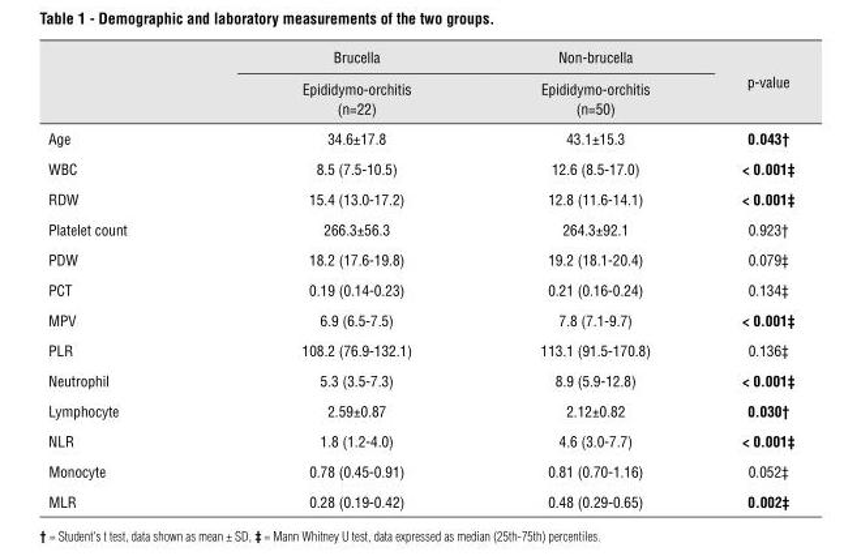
<table><thead><tr><td rowspan="2"></td><td rowspan="2">Brucella Epididymo-orchitis (n=22)</td><td rowspan="2">Non-brucella Epididymo-orchitis (n=50)</td><td rowspan="2">p-value</td></tr><tr></tr></thead><tbody><tr><td>Age</td><td>34.6±17.8</td><td>43.1±15.3</td><td>0.043†</td></tr><tr><td>WBC</td><td>8.5 (7.5-10.5)</td><td>12.6 (8.5-17.0)</td><td>&lt; 0.001‡</td></tr><tr><td>RDW</td><td>15.4 (13.0-17.2)</td><td>12.8 (11.6-14.1)</td><td>&lt; 0.001‡</td></tr><tr><td>Platelet count</td><td>266.3±56.3</td><td>264.3±92.1</td><td>0.923†</td></tr><tr><td>PDW</td><td>18.2 (17.6-19.8)</td><td>19.2 (18.1-20.4)</td><td>0.079‡</td></tr><tr><td>PCT</td><td>0.19 (0.14-0.23)</td><td>0.21 (0.16-0.24)</td><td>0.134‡</td></tr><tr><td>MPV</td><td>6.9 (6.5-7.5)</td><td>7.8 (7.1-9.7)</td><td>&lt; 0.001‡</td></tr><tr><td>PLR</td><td>108.2 (76.9-132.1)</td><td>113.1 (91.5-170.8)</td><td>0.136‡</td></tr><tr><td>Neutrophil</td><td>5.3 (3.5-7.3)</td><td>8.9 (5.9-12.8)</td><td>&lt; 0.001‡</td></tr><tr><td>Lymphocyte</td><td>2.59±0.87</td><td>2.12±0.82</td><td>0.030†</td></tr><tr><td>NLR</td><td>1.8 (1.2-4.0)</td><td>4.6 (3.0-7.7)</td><td>&lt; 0.001‡</td></tr><tr><td>Monocyte</td><td>0.78 (0.45-0.91)</td><td>0.81 (0.70-1.16)</td><td>0.052‡</td></tr><tr><td>MLR</td><td>0.28 (0.19-0.42)</td><td>0.48 (0.29-0.65)</td><td>0.002‡</td></tr></tbody></table>